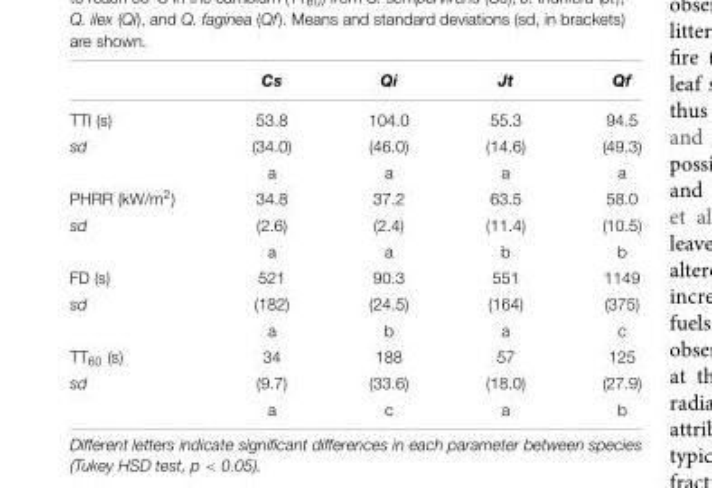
<table><thead><tr><td></td><td>Cs</td><td>Qi</td><td>Jt</td><td>Qf</td></tr></thead><tbody><tr><td>TTI (s)</td><td>53.8</td><td>104.0</td><td>55.3</td><td>94.5</td></tr><tr><td rowspan="2">sd</td><td>(34.0)</td><td>(46.0)</td><td>(14.6)</td><td>(49.3)</td></tr><tr><td>a</td><td>a</td><td>a</td><td>a</td></tr><tr><td>PHRR (kW/m<sup>2</sup>)</td><td>34.8</td><td>37.2</td><td>63.5</td><td>58.0</td></tr><tr><td rowspan="2">sd</td><td>(2.6)</td><td>(2.4)</td><td>(11.4)</td><td>(10.5)</td></tr><tr><td>a</td><td>a</td><td>b</td><td>b</td></tr><tr><td>FD (s)</td><td>521</td><td>90.3</td><td>551</td><td>1149</td></tr><tr><td rowspan="2">sd</td><td>(182)</td><td>(24.5)</td><td>(164)</td><td>(375)</td></tr><tr><td>a</td><td>b</td><td>a</td><td>c</td></tr><tr><td>TT<sub>60</sub> (s)</td><td>34</td><td>188</td><td>57</td><td>125</td></tr><tr><td rowspan="2">sd</td><td>(9.7)</td><td>(33.6)</td><td>(18.0)</td><td>(27.9)</td></tr><tr><td>a</td><td>c</td><td>a</td><td>b</td></tr></tbody></table>